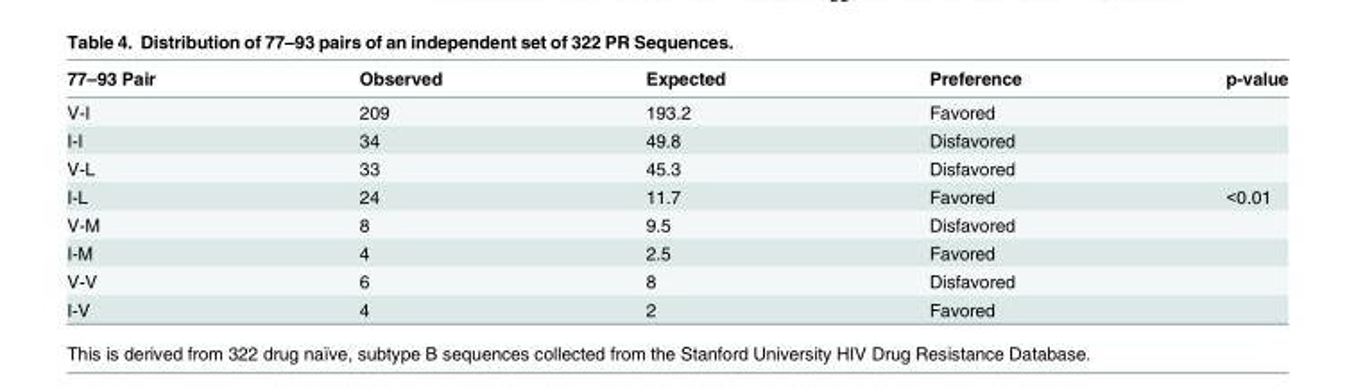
<table><thead><tr><td>77–93 Pair</td><td>Observed</td><td>Expected</td><td>Preference</td><td>p-value</td></tr></thead><tbody><tr><td>V-I</td><td>209</td><td>193.2</td><td>Favored</td><td></td></tr><tr><td>I-I</td><td>34</td><td>49.8</td><td>Disfavored</td><td></td></tr><tr><td>V-L</td><td>33</td><td>45.3</td><td>Disfavored</td><td></td></tr><tr><td>I-L</td><td>24</td><td>11.7</td><td>Favored</td><td>&lt;0.01</td></tr><tr><td>V-M</td><td>8</td><td>9.5</td><td>Disfavored</td><td></td></tr><tr><td>I-M</td><td>4</td><td>2.5</td><td>Favored</td><td></td></tr><tr><td>V-V</td><td>6</td><td>8</td><td>Disfavored</td><td></td></tr><tr><td>I-V</td><td>4</td><td>2</td><td>Favored</td><td></td></tr></tbody></table>